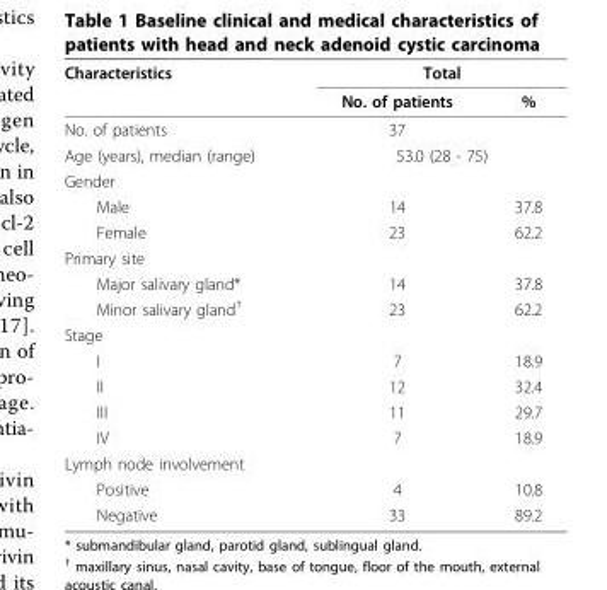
<table><thead><tr><td rowspan="2">Characteristics</td><td colspan="2">Total</td></tr><tr><td>No. of patients</td><td>%</td></tr></thead><tbody><tr><td>No. of patients</td><td>37</td><td></td></tr><tr><td>Age (years), median (range)</td><td colspan="2">53.0 (28 - 75)</td></tr><tr><td colspan="3">Gender</td></tr><tr><td>Male</td><td>14</td><td>37.8</td></tr><tr><td>Female</td><td>23</td><td>62.2</td></tr><tr><td colspan="3">Primary site</td></tr><tr><td>Major salivary gland*</td><td>14</td><td>37.8</td></tr><tr><td>Minor salivary gland<sup>†</sup></td><td>23</td><td>62.2</td></tr><tr><td colspan="3">Stage</td></tr><tr><td>I</td><td>7</td><td>18.9</td></tr><tr><td>II</td><td>12</td><td>32.4</td></tr><tr><td>III</td><td>11</td><td>29.7</td></tr><tr><td>IV</td><td>7</td><td>18.9</td></tr><tr><td colspan="3">Lymph node involvement</td></tr><tr><td>Positive</td><td>4</td><td>10.8</td></tr><tr><td>Negative</td><td>33</td><td>89.2</td></tr></tbody></table>